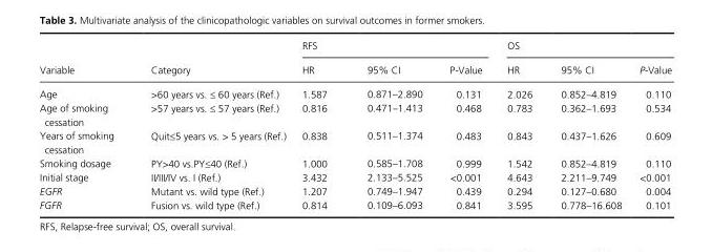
<table><thead><tr><td rowspan="2">Variable</td><td rowspan="2">Category</td><td colspan="3">RFS</td><td colspan="3">OS</td></tr><tr><td>HR</td><td>95% CI</td><td>P- Value</td><td>HR</td><td>95% CI</td><td>P- Value</td></tr></thead><tbody><tr><td>Age</td><td>&gt;60 years vs. ≤ 60 years (Ref.)</td><td>1.587</td><td>0.871–2.890</td><td>0.131</td><td>2.026</td><td>0.852–4.819</td><td>0.110</td></tr><tr><td>Age of smoking cessation</td><td>&gt;57 years vs. ≤ 57 years (Ref.)</td><td>0.816</td><td>0.471–1.413</td><td>0.468</td><td>0.783</td><td>0.362–1.693</td><td>0.534</td></tr><tr><td>Years of smoking cessation</td><td>Quit≤5 years vs. &gt; 5 years (Ref.)</td><td>0.838</td><td>0.511–1.374</td><td>0.483</td><td>0.843</td><td>0.437–1.626</td><td>0.609</td></tr><tr><td>Smoking dosage</td><td>PY&gt;40 vs.PY≤40 (Ref.)</td><td>1.000</td><td>0.585–1.708</td><td>0.999</td><td>1.542</td><td>0.852–4.819</td><td>0.110</td></tr><tr><td>Initial stage</td><td>II/III/IV vs. I (Ref.)</td><td>3.432</td><td>2.133–5.525</td><td>&lt;0.001</td><td>4.643</td><td>2.211–9.749</td><td>&lt;0.001</td></tr><tr><td>EGFR</td><td>Mutant vs. wild type (Ref.)</td><td>1.207</td><td>0.749–1.947</td><td>0.439</td><td>0.294</td><td>0.127–0.680</td><td>0.004</td></tr><tr><td>FGFR</td><td>Fusion vs. wild type (Ref.)</td><td>0.814</td><td>0.109–6.093</td><td>0.841</td><td>3.595</td><td>0.778–16.608</td><td>0.101</td></tr></tbody></table>